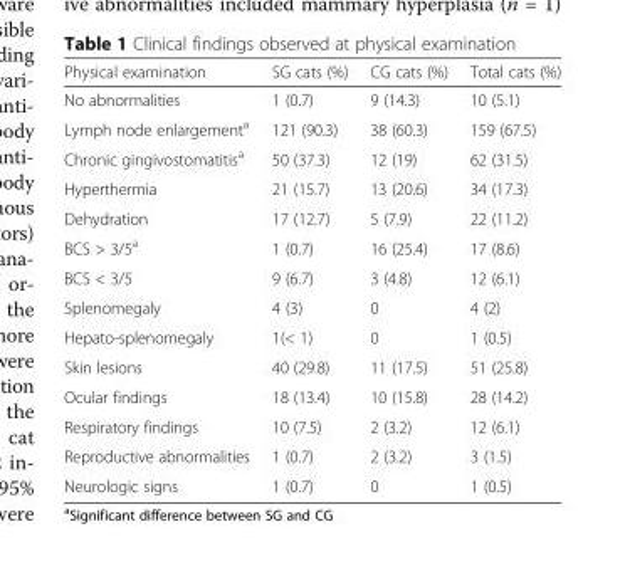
<table><thead><tr><td>Physical examination</td><td>SG cats (%)</td><td>CG cats (%)</td><td>Total cats (%)</td></tr></thead><tbody><tr><td>No abnormalities</td><td>1 (0.7)</td><td>9 (14.3)</td><td>10 (5.1)</td></tr><tr><td>Lymph node enlargement<sup>a</sup></td><td>121 (90.3)</td><td>38 (60.3)</td><td>159 (67.5)</td></tr><tr><td>Chronic gingivostomatitis<sup>a</sup></td><td>50 (37.3)</td><td>12 (19)</td><td>62 (31.5)</td></tr><tr><td>Hyperthermia</td><td>21 (15.7)</td><td>13 (20.6)</td><td>34 (17.3)</td></tr><tr><td>Dehydration</td><td>17 (12.7)</td><td>5 (7.9)</td><td>22 (11.2)</td></tr><tr><td>BCS &gt; 3/5<sup>a</sup></td><td>1 (0.7)</td><td>16 (25.4)</td><td>17 (8.6)</td></tr><tr><td>BCS &lt; 3/5</td><td>9 (6.7)</td><td>3 (4.8)</td><td>12 (6.1)</td></tr><tr><td>Splenomegaly</td><td>4 (3)</td><td>0</td><td>4 (2)</td></tr><tr><td>Hepato-splenomegaly</td><td>1(&lt; 1)</td><td>0</td><td>1 (0.5)</td></tr><tr><td>Skin lesions</td><td>40 (29.8)</td><td>11 (17.5)</td><td>51 (25.8)</td></tr><tr><td>Ocular findings</td><td>18 (13.4)</td><td>10 (15.8)</td><td>28 (14.2)</td></tr><tr><td>Respiratory findings</td><td>10 (7.5)</td><td>2 (3.2)</td><td>12 (6.1)</td></tr><tr><td>Reproductive abnormalities</td><td>1 (0.7)</td><td>2 (3.2)</td><td>3 (1.5)</td></tr><tr><td>Neurologic signs</td><td>1 (0.7)</td><td>0</td><td>1 (0.5)</td></tr></tbody></table>